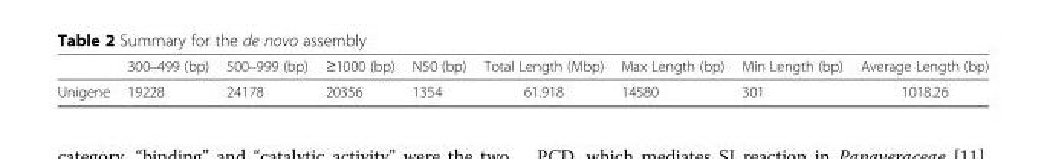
<table><thead><tr><td></td><td>300–499 (bp)</td><td>500–999 (bp)</td><td>≥1000 (bp)</td><td>N50 (bp)</td><td>Total Length (Mbp)</td><td>Max Length (bp)</td><td>Min Length (bp)</td><td>Average Length (bp)</td></tr></thead><tbody><tr><td>Unigene</td><td>19228</td><td>24178</td><td>20356</td><td>1354</td><td>61.918</td><td>14580</td><td>301</td><td>1018.26</td></tr></tbody></table>